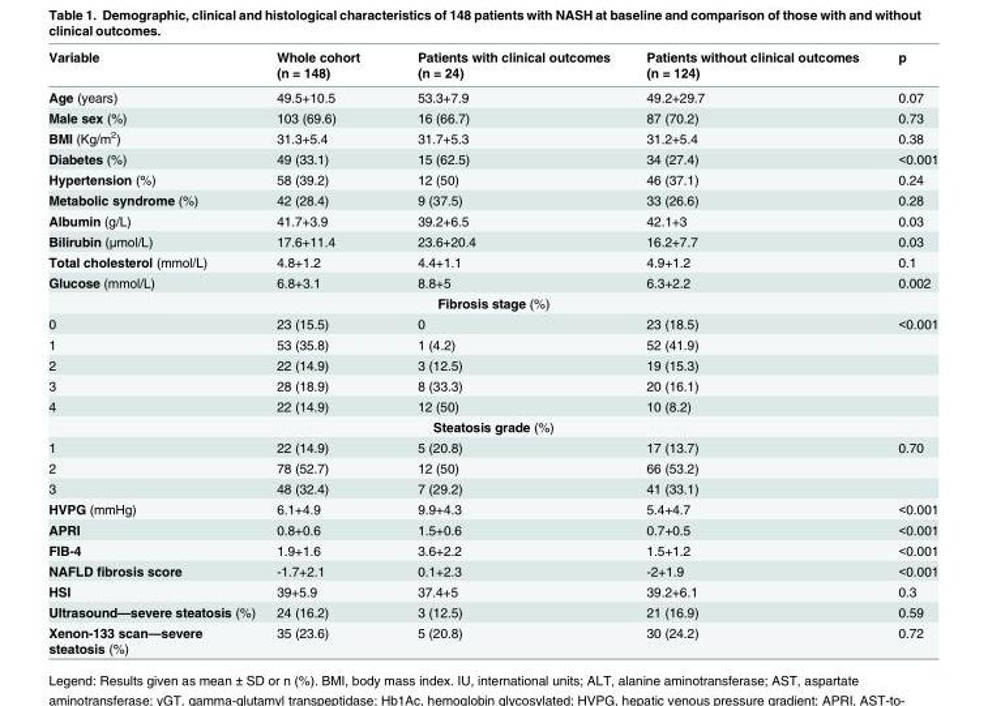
<table><thead><tr><td>Variable</td><td>Whole cohort (n = 148)</td><td>Patients with clinical outcomes (n = 24)</td><td>Patients without clinical outcomes (n = 124)</td><td>p</td></tr></thead><tbody><tr><td>Age (years)</td><td>49.5+10.5</td><td>53.3+7.9</td><td>49.2+29.7</td><td>0.07</td></tr><tr><td>Male sex (%)</td><td>103 (69.6)</td><td>16 (66.7)</td><td>87 (70.2)</td><td>0.73</td></tr><tr><td>BMI (Kg/m<sup>2</sup>)</td><td>31.3+5.4</td><td>31.7+5.3</td><td>31.2+5.4</td><td>0.38</td></tr><tr><td>Diabetes (%)</td><td>49 (33.1)</td><td>15 (62.5)</td><td>34 (27.4)</td><td>&lt;0.001</td></tr><tr><td>Hypertension (%)</td><td>58 (39.2)</td><td>12 (50)</td><td>46 (37.1)</td><td>0.24</td></tr><tr><td>Metabolic syndrome (%)</td><td>42 (28.4)</td><td>9 (37.5)</td><td>33 (26.6)</td><td>0.28</td></tr><tr><td>Albumin (g/L)</td><td>41.7+3.9</td><td>39.2+6.5</td><td>42.1+3</td><td>0.03</td></tr><tr><td>Bilirubin (μmol/L)</td><td>17.6+11.4</td><td>23.6+20.4</td><td>16.2+7.7</td><td>0.03</td></tr><tr><td>Total cholesterol (mmol/L)</td><td>4.8+1.2</td><td>4.4+1.1</td><td>4.9+1.2</td><td>0.1</td></tr><tr><td>Glucose (mmol/L)</td><td>6.8+3.1</td><td>8.8+5</td><td>6.3+2.2</td><td>0.002</td></tr><tr><td colspan="5">Fibrosis stage (%)</td></tr><tr><td>0</td><td>23 (15.5)</td><td>0</td><td>23 (18.5)</td><td>&lt;0.001</td></tr><tr><td>1</td><td>53 (35.8)</td><td>1 (4.2)</td><td>52 (41.9)</td><td></td></tr><tr><td>2</td><td>22 (14.9)</td><td>3 (12.5)</td><td>19 (15.3)</td><td></td></tr><tr><td>3</td><td>28 (18.9)</td><td>8 (33.3)</td><td>20 (16.1)</td><td></td></tr><tr><td>4</td><td>22 (14.9)</td><td>12 (50)</td><td>10 (8.2)</td><td></td></tr><tr><td colspan="5">Steatosis grade (%)</td></tr><tr><td>1</td><td>22 (14.9)</td><td>5 (20.8)</td><td>17 (13.7)</td><td>0.70</td></tr><tr><td>2</td><td>78 (52.7)</td><td>12 (50)</td><td>66 (53.2)</td><td></td></tr><tr><td>3</td><td>48 (32.4)</td><td>7 (29.2)</td><td>41 (33.1)</td><td></td></tr><tr><td>HVPG (mmHg)</td><td>6.1+4.9</td><td>9.9+4.3</td><td>5.4+4.7</td><td>&lt;0.001</td></tr><tr><td>APRI</td><td>0.8+0.6</td><td>1.5+0.6</td><td>0.7+0.5</td><td>&lt;0.001</td></tr><tr><td>FIB-4</td><td>1.9+1.6</td><td>3.6+2.2</td><td>1.5+1.2</td><td>&lt;0.001</td></tr><tr><td>NAFLD fibrosis score</td><td>-1.7+2.1</td><td>0.1+2.3</td><td>-2+1.9</td><td>&lt;0.001</td></tr><tr><td>HSI</td><td>39+5.9</td><td>37.4+5</td><td>39.2+6.1</td><td>0.3</td></tr><tr><td>Ultrasound—severe steatosis (%)</td><td>24 (16.2)</td><td>3 (12.5)</td><td>21 (16.9)</td><td>0.59</td></tr><tr><td>Xenon-133 scan—severe steatosis (%)</td><td>35 (23.6)</td><td>5 (20.8)</td><td>30 (24.2)</td><td>0.72</td></tr></tbody></table>